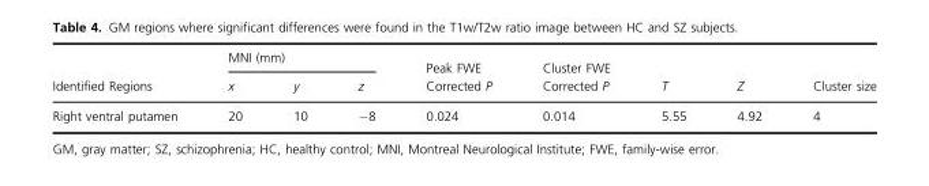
<table><thead><tr><td rowspan="2">Identified Regions</td><td colspan="3">MNI (mm)</td><td rowspan="2">Peak FWE Corrected P</td><td rowspan="2">Cluster FWE Corrected P</td><td rowspan="2">T</td><td rowspan="2">Z</td><td rowspan="2">Cluster size</td></tr><tr><td>x</td><td>y</td><td>z</td></tr></thead><tbody><tr><td>Right ventral putamen</td><td>20</td><td>10</td><td>−8</td><td>0.024</td><td>0.014</td><td>5.55</td><td>4.92</td><td>4</td></tr></tbody></table>